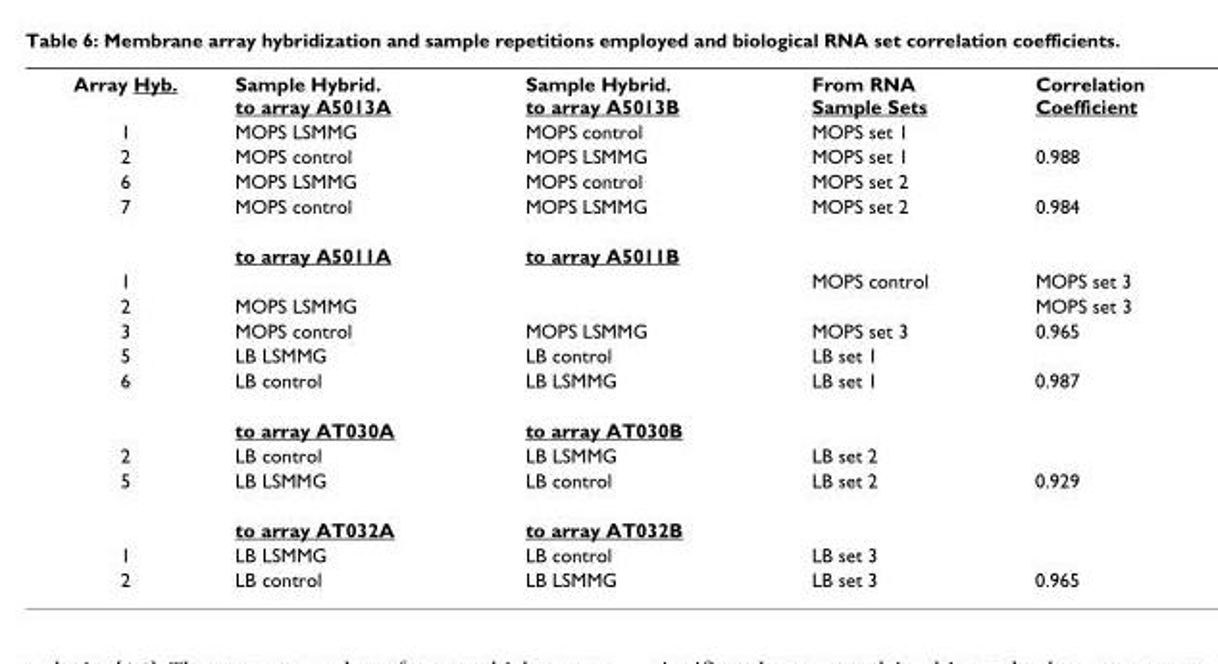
<table><tbody><tr><td>Array Hyb.</td><td>Sample Hybrid. to array A5013A</td><td>Sample Hybrid. to array A5013B</td><td>From RNA Sample Sets</td><td>Correlation Coefficient</td></tr><tr><td>1</td><td>MOPS LSMMG</td><td>MOPS control</td><td>MOPS set 1</td><td></td></tr><tr><td>2</td><td>MOPS control</td><td>MOPS LSMMG</td><td>MOPS set 1</td><td>0.988</td></tr><tr><td>6</td><td>MOPS LSMMG</td><td>MOPS control</td><td>MOPS set 2</td><td></td></tr><tr><td rowspan="2">7</td><td>MOPS control</td><td>MOPS LSMMG</td><td>MOPS set 2</td><td>0.984</td></tr><tr><td>to array A5011A</td><td>to array A5011B</td><td></td><td></td></tr><tr><td>1</td><td></td><td></td><td>MOPS control</td><td>MOPS set 3</td></tr><tr><td>2</td><td>MOPS LSMMG</td><td></td><td></td><td>MOPS set 3</td></tr><tr><td>3</td><td>MOPS control</td><td>MOPS LSMMG</td><td>MOPS set 3</td><td>0.965</td></tr><tr><td>5</td><td>LB LSMMG</td><td>LB control</td><td>LB set 1</td><td></td></tr><tr><td rowspan="2">6</td><td>LB control</td><td>LB LSMMG</td><td>LB set 1</td><td>0.987</td></tr><tr><td>to array AT030A</td><td>to array AT030B</td><td></td><td></td></tr><tr><td>2</td><td>LB control</td><td>LB LSMMG</td><td>LB set 2</td><td></td></tr><tr><td rowspan="2">5</td><td>LB LSMMG</td><td>LB control</td><td>LB set 2</td><td>0.929</td></tr><tr><td>to array AT032A</td><td>to array AT032B</td><td></td><td></td></tr><tr><td>1</td><td>LB LSMMG</td><td>LB control</td><td>LB set 3</td><td></td></tr><tr><td>2</td><td>LB control</td><td>LB LSMMG</td><td>LB set 3</td><td>0.965</td></tr></tbody></table>